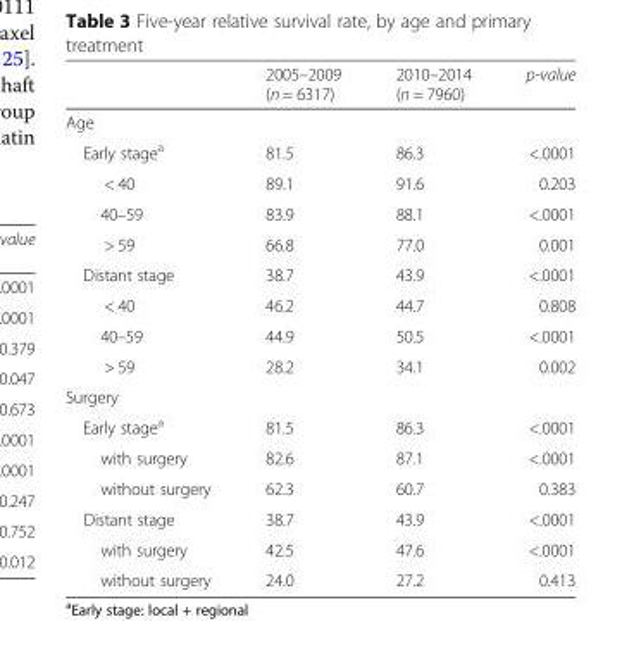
<table><thead><tr><td></td><td>2005–2009 (n = 6317)</td><td>2010–2014 (n = 7960)</td><td>p-value</td></tr></thead><tbody><tr><td colspan="4">Age</td></tr><tr><td>Early stage<sup>a</sup></td><td>81.5</td><td>86.3</td><td>&lt;.0001</td></tr><tr><td>&lt; 40</td><td>89.1</td><td>91.6</td><td>0.203</td></tr><tr><td>40–59</td><td>83.9</td><td>88.1</td><td>&lt;.0001</td></tr><tr><td>&gt; 59</td><td>66.8</td><td>77.0</td><td>0.001</td></tr><tr><td>Distant stage</td><td>38.7</td><td>43.9</td><td>&lt;.0001</td></tr><tr><td>&lt; 40</td><td>46.2</td><td>44.7</td><td>0.808</td></tr><tr><td>40–59</td><td>44.9</td><td>50.5</td><td>&lt;.0001</td></tr><tr><td>&gt; 59</td><td>28.2</td><td>34.1</td><td>0.002</td></tr><tr><td colspan="4">Surgery</td></tr><tr><td>Early stage<sup>a</sup></td><td>81.5</td><td>86.3</td><td>&lt;.0001</td></tr><tr><td>with surgery</td><td>82.6</td><td>87.1</td><td>&lt;.0001</td></tr><tr><td>without surgery</td><td>62.3</td><td>60.7</td><td>0.383</td></tr><tr><td>Distant stage</td><td>38.7</td><td>43.9</td><td>&lt;.0001</td></tr><tr><td>with surgery</td><td>42.5</td><td>47.6</td><td>&lt;.0001</td></tr><tr><td>without surgery</td><td>24.0</td><td>27.2</td><td>0.413</td></tr></tbody></table>